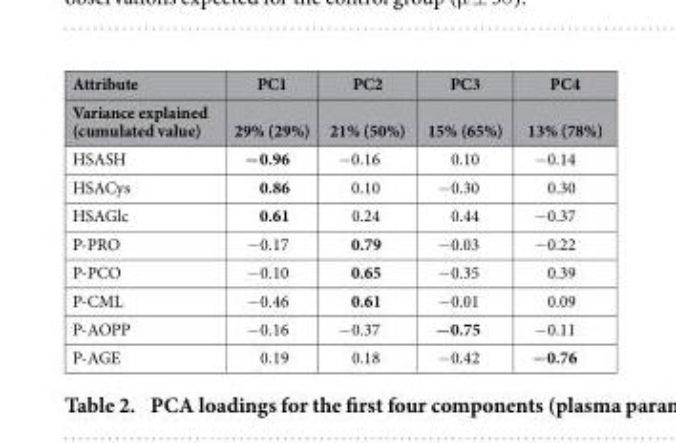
<table><thead><tr><td rowspan="2">Attribute Variance explained (cumulated value)</td><td rowspan="2">PC1 29% (29%)</td><td rowspan="2">PC2 21% (50%)</td><td rowspan="2">PC3 15% (65%)</td><td rowspan="2">PC4 13% (78%)</td></tr><tr></tr></thead><tbody><tr><td>HSASH</td><td>−0.96</td><td>− 0.16</td><td>0.10</td><td>− 0.14</td></tr><tr><td>HSACys</td><td>0.86</td><td>0.10</td><td>− 0.30</td><td>0.30</td></tr><tr><td>HSAGlc</td><td>0.61</td><td>0.24</td><td>0.44</td><td>− 0.37</td></tr><tr><td>P-PRO</td><td>− 0.17</td><td>0.79</td><td>− 0.03</td><td>− 0.22</td></tr><tr><td>P-PCO</td><td>− 0.10</td><td>0.65</td><td>− 0.35</td><td>0.39</td></tr><tr><td>P-CML</td><td>− 0.46</td><td>0.61</td><td>− 0.01</td><td>0.09</td></tr><tr><td>P-AOPP</td><td>− 0.16</td><td>− 0.37</td><td>−0.75</td><td>− 0.11</td></tr><tr><td>P-AGE</td><td>0.19</td><td>0.18</td><td>− 0.42</td><td>−0.76</td></tr></tbody></table>